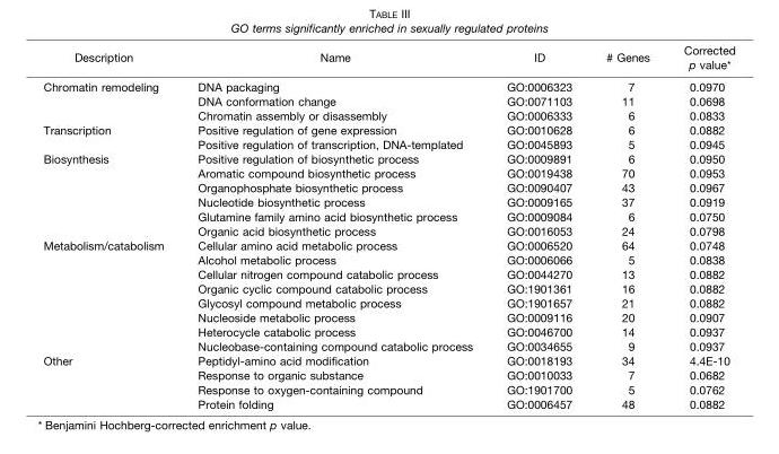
<table><thead><tr><td>Description</td><td>Name</td><td>ID</td><td># Genes</td><td>Corrected p value*</td></tr></thead><tbody><tr><td rowspan="3">Chromatin remodeling</td><td>DNA packaging</td><td>GO:0006323</td><td>7</td><td>0.0970</td></tr><tr><td>DNA conformation change</td><td>GO:0071103</td><td>11</td><td>0.0698</td></tr><tr><td>Chromatin assembly or disassembly</td><td>GO:0006333</td><td>6</td><td>0.0833</td></tr><tr><td rowspan="2">Transcription</td><td>Positive regulation of gene expression</td><td>GO:0010628</td><td>6</td><td>0.0882</td></tr><tr><td>Positive regulation of transcription, DNA-templated</td><td>GO:0045893</td><td>5</td><td>0.0945</td></tr><tr><td rowspan="6">Biosynthesis</td><td>Positive regulation of biosynthetic process</td><td>GO:0009891</td><td>6</td><td>0.0950</td></tr><tr><td>Aromatic compound biosynthetic process</td><td>GO:0019438</td><td>70</td><td>0.0953</td></tr><tr><td>Organophosphate biosynthetic process</td><td>GO:0090407</td><td>43</td><td>0.0967</td></tr><tr><td>Nucleotide biosynthetic process</td><td>GO:0009165</td><td>37</td><td>0.0919</td></tr><tr><td>Glutamine family amino acid biosynthetic process</td><td>GO:0009084</td><td>6</td><td>0.0750</td></tr><tr><td>Organic acid biosynthetic process</td><td>GO:0016053</td><td>24</td><td>0.0798</td></tr><tr><td rowspan="8">Metabolism/catabolism</td><td>Cellular amino acid metabolic process</td><td>GO:0006520</td><td>64</td><td>0.0748</td></tr><tr><td>Alcohol metabolic process</td><td>GO:0006066</td><td>5</td><td>0.0838</td></tr><tr><td>Cellular nitrogen compound catabolic process</td><td>GO:0044270</td><td>13</td><td>0.0882</td></tr><tr><td>Organic cyclic compound catabolic process</td><td>GO:1901361</td><td>16</td><td>0.0882</td></tr><tr><td>Glycosyl compound metabolic process</td><td>GO:1901657</td><td>21</td><td>0.0882</td></tr><tr><td>Nucleoside metabolic process</td><td>GO:0009116</td><td>20</td><td>0.0907</td></tr><tr><td>Heterocycle catabolic process</td><td>GO:0046700</td><td>14</td><td>0.0937</td></tr><tr><td>Nucleobase-containing compound catabolic process</td><td>GO:0034655</td><td>9</td><td>0.0937</td></tr><tr><td rowspan="4">Other</td><td>Peptidyl-amino acid modification</td><td>GO:0018193</td><td>34</td><td>4.4E-10</td></tr><tr><td>Response to organic substance</td><td>GO:0010033</td><td>7</td><td>0.0682</td></tr><tr><td>Response to oxygen-containing compound</td><td>GO:1901700</td><td>5</td><td>0.0762</td></tr><tr><td>Protein folding</td><td>GO:0006457</td><td>48</td><td>0.0882</td></tr></tbody></table>